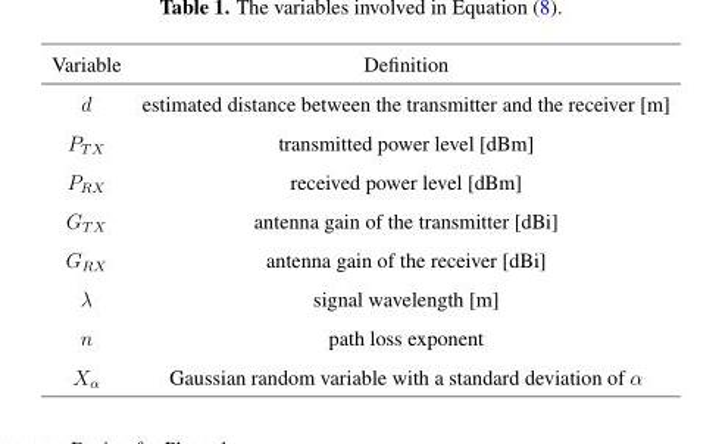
<table><thead><tr><td>Variable</td><td>Definition</td></tr></thead><tbody><tr><td>d</td><td>estimated distance between the transmitter and the receiver [m]</td></tr><tr><td>P<sub>TX</sub></td><td>transmitted power level [dBm]</td></tr><tr><td>P<sub>RX</sub></td><td>received power level [dBm]</td></tr><tr><td>G<sub>TX</sub></td><td>antenna gain of the transmitter [dBi]</td></tr><tr><td>G<sub>RX</sub></td><td>antenna gain of the receiver [dBi]</td></tr><tr><td>λ</td><td>signal wavelength [m]</td></tr><tr><td>n</td><td>path loss exponent</td></tr><tr><td>X<sub>α</sub></td><td>Gaussian random variable with a standard deviation of α</td></tr></tbody></table>